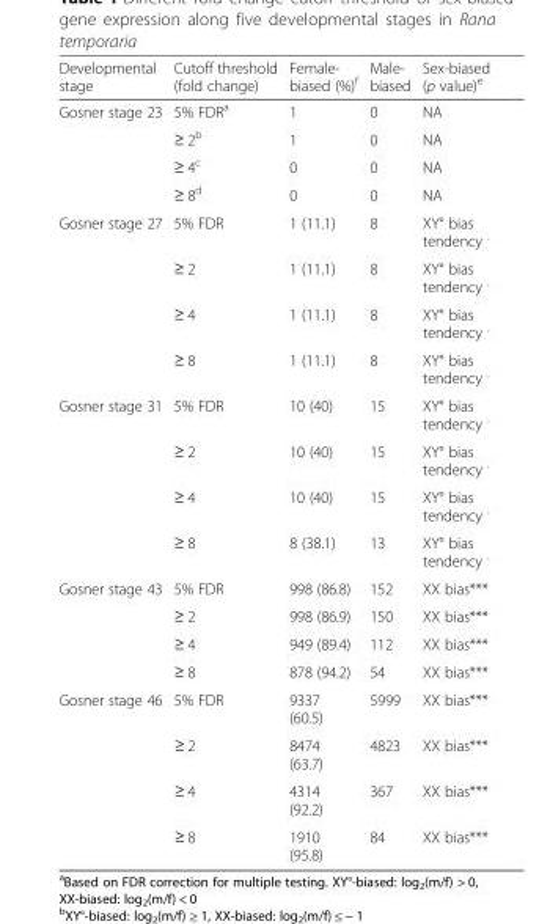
<table><thead><tr><td>Developmental stage</td><td>Cutoff threshold (fold change)</td><td>Female- biased (%)<sup>f</sup></td><td>Male- biased</td><td>Sex-biased (p value)<sup>e</sup></td></tr></thead><tbody><tr><td rowspan="4">Gosner stage 23</td><td>5% FDR<sup>a</sup></td><td>1</td><td>0</td><td>NA</td></tr><tr><td>≥ 2<sup>b</sup></td><td>1</td><td>0</td><td>NA</td></tr><tr><td>≥ 4<sup>c</sup></td><td>0</td><td>0</td><td>NA</td></tr><tr><td>≥ 8<sup>d</sup></td><td>0</td><td>0</td><td>NA</td></tr><tr><td rowspan="4">Gosner stage 27</td><td>5% FDR</td><td>1 (11.1)</td><td>8</td><td>XY° bias tendency <sup>.</sup></td></tr><tr><td>≥ 2</td><td>1 (11.1)</td><td>8</td><td>XY° bias tendency <sup>.</sup></td></tr><tr><td>≥ 4</td><td>1 (11.1)</td><td>8</td><td>XY° bias tendency <sup>.</sup></td></tr><tr><td>≥ 8</td><td>1 (11.1)</td><td>8</td><td>XY° bias tendency <sup>.</sup></td></tr><tr><td rowspan="4">Gosner stage 31</td><td>5% FDR</td><td>10 (40)</td><td>15</td><td>XY° bias tendency <sup>.</sup></td></tr><tr><td>≥ 2</td><td>10 (40)</td><td>15</td><td>XY° bias tendency <sup>.</sup></td></tr><tr><td>≥ 4</td><td>10 (40)</td><td>15</td><td>XY° bias tendency <sup>.</sup></td></tr><tr><td>≥ 8</td><td>8 (38.1)</td><td>13</td><td>XY° bias tendency <sup>.</sup></td></tr><tr><td rowspan="4">Gosner stage 43</td><td>5% FDR</td><td>998 (86.8)</td><td>152</td><td>XX bias***</td></tr><tr><td>≥ 2</td><td>998 (86.9)</td><td>150</td><td>XX bias***</td></tr><tr><td>≥ 4</td><td>949 (89.4)</td><td>112</td><td>XX bias***</td></tr><tr><td>≥ 8</td><td>878 (94.2)</td><td>54</td><td>XX bias***</td></tr><tr><td rowspan="4">Gosner stage 46</td><td>5% FDR</td><td>9337 (60.5)</td><td>5999</td><td>XX bias***</td></tr><tr><td>≥ 2</td><td>8474 (63.7)</td><td>4823</td><td>XX bias***</td></tr><tr><td>≥ 4</td><td>4314 (92.2)</td><td>367</td><td>XX bias***</td></tr><tr><td>≥ 8</td><td>1910 (95.8)</td><td>84</td><td>XX bias***</td></tr></tbody></table>